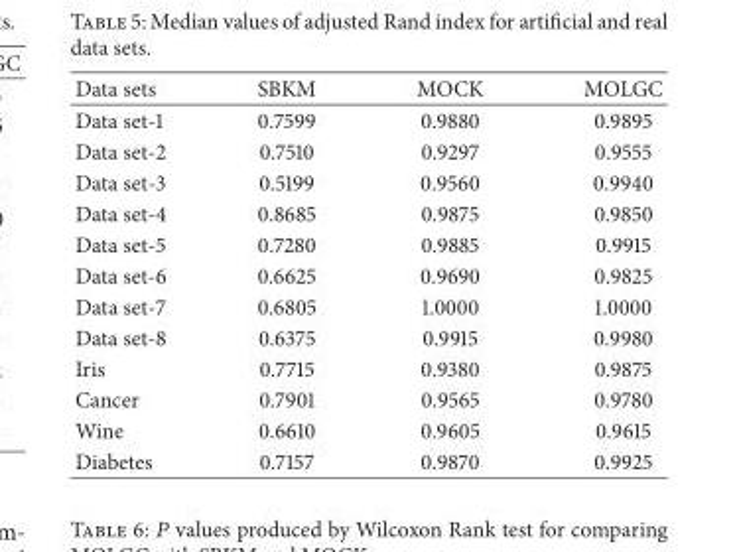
<table><thead><tr><td>Data sets</td><td>SBKM</td><td>MOCK</td><td>MOLGC</td></tr></thead><tbody><tr><td>Data set-1</td><td>0.7599</td><td>0.9880</td><td>0.9895</td></tr><tr><td>Data set-2</td><td>0.7510</td><td>0.9297</td><td>0.9555</td></tr><tr><td>Data set-3</td><td>0.5199</td><td>0.9560</td><td>0.9940</td></tr><tr><td>Data set-4</td><td>0.8685</td><td>0.9875</td><td>0.9850</td></tr><tr><td>Data set-5</td><td>0.7280</td><td>0.9885</td><td>0.9915</td></tr><tr><td>Data set-6</td><td>0.6625</td><td>0.9690</td><td>0.9825</td></tr><tr><td>Data set-7</td><td>0.6805</td><td>1.0000</td><td>1.0000</td></tr><tr><td>Data set-8</td><td>0.6375</td><td>0.9915</td><td>0.9980</td></tr><tr><td>Iris</td><td>0.7715</td><td>0.9380</td><td>0.9875</td></tr><tr><td>Cancer</td><td>0.7901</td><td>0.9565</td><td>0.9780</td></tr><tr><td>Wine</td><td>0.6610</td><td>0.9605</td><td>0.9615</td></tr><tr><td>Diabetes</td><td>0.7157</td><td>0.9870</td><td>0.9925</td></tr></tbody></table>